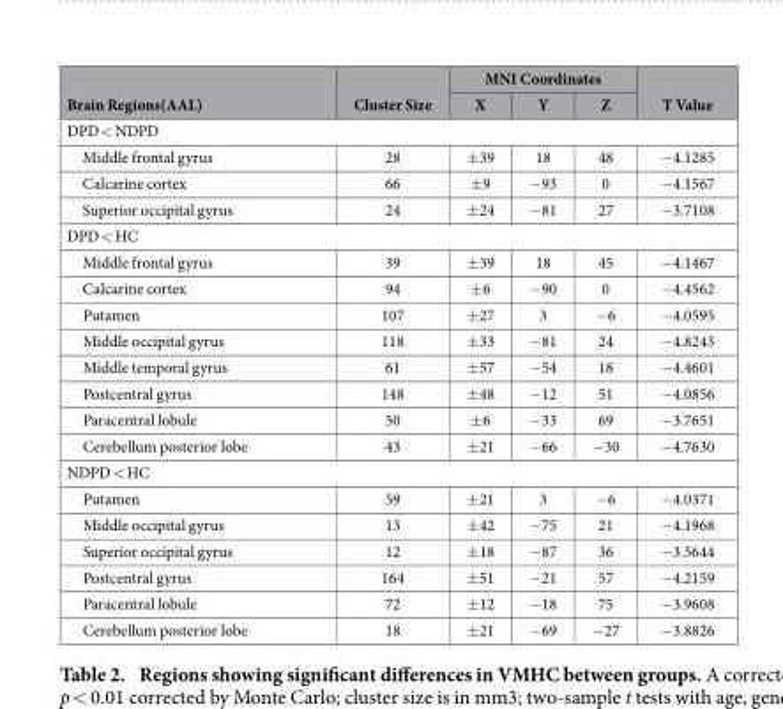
<table><thead><tr><td rowspan="2">Brain Regions(AAL)</td><td rowspan="2">Cluster Size</td><td colspan="3">MNI Coordinates</td><td rowspan="2">T Value</td></tr><tr><td>X</td><td>Y</td><td>Z</td></tr></thead><tbody><tr><td colspan="6">DPD &lt; NDPD</td></tr><tr><td>Middle frontal gyrus</td><td>28</td><td>± 39</td><td>18</td><td>48</td><td>− 4.1285</td></tr><tr><td>Calcarine cortex</td><td>66</td><td>± 9</td><td>− 93</td><td>0</td><td>− 4.1567</td></tr><tr><td>Superior occipital gyrus</td><td>24</td><td>± 24</td><td>− 81</td><td>27</td><td>− 3.7108</td></tr><tr><td colspan="6">DPD &lt; HC</td></tr><tr><td>Middle frontal gyrus</td><td>39</td><td>± 39</td><td>18</td><td>45</td><td>− 4.1467</td></tr><tr><td>Calcarine cortex</td><td>94</td><td>± 6</td><td>− 90</td><td>0</td><td>− 4.4562</td></tr><tr><td>Putamen</td><td>107</td><td>± 27</td><td>3</td><td>− 6</td><td>− 4.0595</td></tr><tr><td>Middle occipital gyrus</td><td>118</td><td>± 33</td><td>− 81</td><td>24</td><td>− 4.8243</td></tr><tr><td>Middle temporal gyrus</td><td>61</td><td>± 57</td><td>− 54</td><td>18</td><td>− 4.4601</td></tr><tr><td>Postcentral gyrus</td><td>148</td><td>± 48</td><td>− 12</td><td>51</td><td>− 4.0856</td></tr><tr><td>Paracentral lobule</td><td>50</td><td>± 6</td><td>− 33</td><td>69</td><td>− 3.7651</td></tr><tr><td>Cerebellum posterior lobe</td><td>43</td><td>± 21</td><td>− 66</td><td>− 30</td><td>− 4.7630</td></tr><tr><td colspan="6">NDPD &lt; HC</td></tr><tr><td>Putamen</td><td>59</td><td>± 21</td><td>3</td><td>− 6</td><td>− 4.0371</td></tr><tr><td>Middle occipital gyrus</td><td>13</td><td>± 42</td><td>− 75</td><td>21</td><td>− 4.1968</td></tr><tr><td>Superior occipital gyrus</td><td>12</td><td>± 18</td><td>− 87</td><td>36</td><td>− 3.5644</td></tr><tr><td>Postcentral gyrus</td><td>164</td><td>± 51</td><td>− 21</td><td>57</td><td>− 4.2159</td></tr><tr><td>Paracentral lobule</td><td>72</td><td>± 12</td><td>− 18</td><td>75</td><td>− 3.9608</td></tr><tr><td>Cerebellum posterior lobe</td><td>18</td><td>± 21</td><td>− 69</td><td>− 27</td><td>− 3.8826</td></tr></tbody></table>